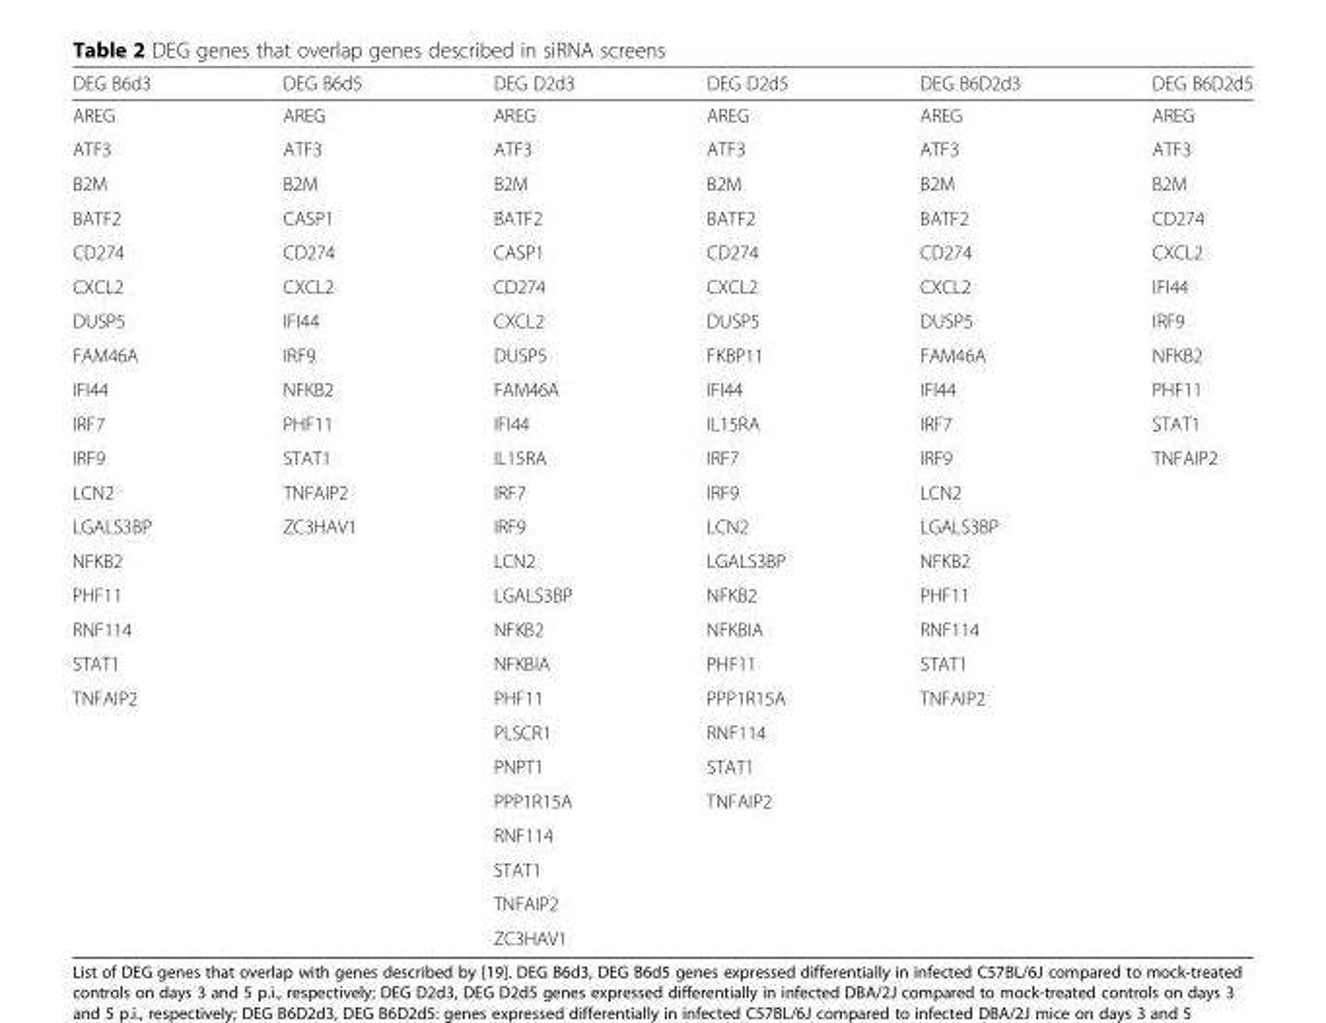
<table><thead><tr><td>DEG B6d3</td><td>DEG B6d5</td><td>DEG D2d3</td><td>DEG D2d5</td><td>DEG B6D2d3</td><td>DEG B6D2d5</td></tr></thead><tbody><tr><td>AREG</td><td>AREG</td><td>AREG</td><td>AREG</td><td>AREG</td><td>AREG</td></tr><tr><td>ATF3</td><td>ATF3</td><td>ATF3</td><td>ATF3</td><td>ATF3</td><td>ATF3</td></tr><tr><td>B2M</td><td>B2M</td><td>B2M</td><td>B2M</td><td>B2M</td><td>B2M</td></tr><tr><td>BATF2</td><td>CASP1</td><td>BATF2</td><td>BATF2</td><td>BATF2</td><td>CD274</td></tr><tr><td>CD274</td><td>CD274</td><td>CASP1</td><td>CD274</td><td>CD274</td><td>CXCL2</td></tr><tr><td>CXCL2</td><td>CXCL2</td><td>CD274</td><td>CXCL2</td><td>CXCL2</td><td>IFI44</td></tr><tr><td>DUSP5</td><td>IFI44</td><td>CXCL2</td><td>DUSP5</td><td>DUSP5</td><td>IRF9</td></tr><tr><td>FAM46A</td><td>IRF9</td><td>DUSP5</td><td>FKBP11</td><td>FAM46A</td><td>NFKB2</td></tr><tr><td>IFI44</td><td>NFKB2</td><td>FAM46A</td><td>IFI44</td><td>IFI44</td><td>PHF11</td></tr><tr><td>IRF7</td><td>PHF11</td><td>IFI44</td><td>IL15RA</td><td>IRF7</td><td>STAT1</td></tr><tr><td>IRF9</td><td>STAT1</td><td>IL15RA</td><td>IRF7</td><td>IRF9</td><td>TNFAIP2</td></tr><tr><td>LCN2</td><td>TNFAIP2</td><td>IRF7</td><td>IRF9</td><td>LCN2</td><td></td></tr><tr><td>LGALS3BP</td><td>ZC3HAV1</td><td>IRF9</td><td>LCN2</td><td>LGALS3BP</td><td></td></tr><tr><td>NFKB2</td><td></td><td>LCN2</td><td>LGALS3BP</td><td>NFKB2</td><td></td></tr><tr><td>PHF11</td><td></td><td>LGALS3BP</td><td>NFKB2</td><td>PHF11</td><td></td></tr><tr><td>RNF114</td><td></td><td>NFKB2</td><td>NFKBIA</td><td>RNF114</td><td></td></tr><tr><td>STAT1</td><td></td><td>NFKBIA</td><td>PHF11</td><td>STAT1</td><td></td></tr><tr><td rowspan="8">TNFAIP2</td><td></td><td>PHF11</td><td>PPP1R15A</td><td>TNFAIP2</td><td></td></tr><tr><td></td><td>PLSCR1</td><td>RNF114</td><td></td><td></td></tr><tr><td></td><td>PNPT1</td><td>STAT1</td><td></td><td></td></tr><tr><td></td><td>PPP1R15A</td><td>TNFAIP2</td><td></td><td></td></tr><tr><td></td><td>RNF114</td><td></td><td></td><td></td></tr><tr><td></td><td>STAT1</td><td></td><td></td><td></td></tr><tr><td></td><td>TNFAIP2</td><td></td><td></td><td></td></tr><tr><td></td><td>ZC3HAV1</td><td></td><td></td><td></td></tr></tbody></table>